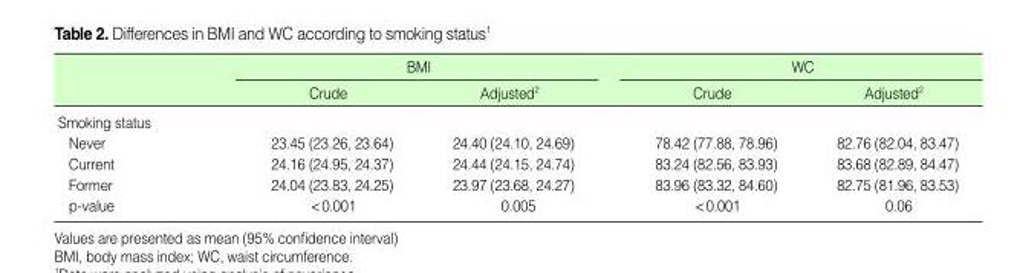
<table><thead><tr><td rowspan="2"></td><td colspan="2">BMI</td><td colspan="2">WC</td></tr><tr><td>Crude</td><td>Adjusted<sup>2</sup></td><td>Crude</td><td>Adjusted<sup>2</sup></td></tr></thead><tbody><tr><td colspan="5">Smoking status</td></tr><tr><td>Never</td><td>23.45 (23.26, 23.64)</td><td>24.40 (24.10, 24.69)</td><td>78.42 (77.88, 78.96)</td><td>82.76 (82.04, 83.47)</td></tr><tr><td>Current</td><td>24.16 (24.95, 24.37)</td><td>24.44 (24.15, 24.74)</td><td>83.24 (82.56, 83.93)</td><td>83.68 (82.89, 84.47)</td></tr><tr><td>Former</td><td>24.04 (23.83, 24.25)</td><td>23.97 (23.68, 24.27)</td><td>83.96 (83.32, 84.60)</td><td>82.75 (81.96, 83.53)</td></tr><tr><td>p-value</td><td>&lt;0.001</td><td>0.005</td><td>&lt;0.001</td><td>0.06</td></tr></tbody></table>